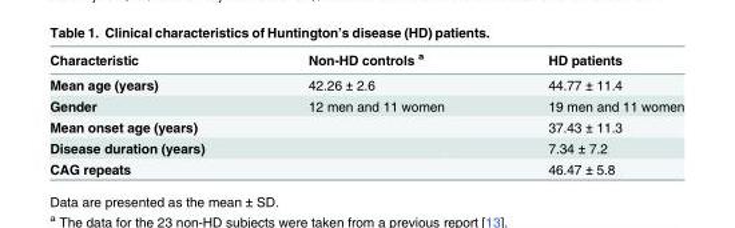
<table><thead><tr><td>Characteristic</td><td>Non-HD controls <sup>a</sup></td><td>HD patients</td></tr></thead><tbody><tr><td>Mean age (years)</td><td>42.26 ± 2.6</td><td>44.77 ± 11.4</td></tr><tr><td>Gender</td><td>12 men and 11 women</td><td>19 men and 11 women</td></tr><tr><td>Mean onset age (years)</td><td></td><td>37.43 ± 11.3</td></tr><tr><td>Disease duration (years)</td><td></td><td>7.34 ± 7.2</td></tr><tr><td>CAG repeats</td><td></td><td>46.47 ± 5.8</td></tr></tbody></table>